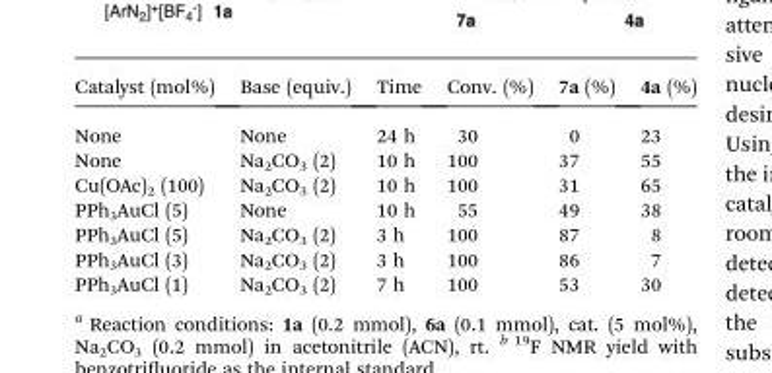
<table><thead><tr><td>Catalyst (mol%)</td><td>Base (equiv.)</td><td>Time</td><td>Conv. (%)</td><td>7a (%)</td><td>4a (%)</td></tr></thead><tbody><tr><td>None</td><td>None</td><td>24 h</td><td>30</td><td>0</td><td>23</td></tr><tr><td>None</td><td>Na<sub>2</sub>CO<sub>3</sub> (2)</td><td>10 h</td><td>100</td><td>37</td><td>55</td></tr><tr><td>Cu(OAc)<sub>2</sub> (100)</td><td>Na<sub>2</sub>CO<sub>3</sub> (2)</td><td>10 h</td><td>100</td><td>31</td><td>65</td></tr><tr><td>PPh<sub>3</sub>AuCl (5)</td><td>None</td><td>10 h</td><td>55</td><td>49</td><td>38</td></tr><tr><td>PPh<sub>3</sub>AuCl (5)</td><td>Na<sub>2</sub>CO<sub>3</sub> (2)</td><td>3 h</td><td>100</td><td>87</td><td>8</td></tr><tr><td>PPh<sub>3</sub>AuCl (3)</td><td>Na<sub>2</sub>CO<sub>3</sub> (2)</td><td>3 h</td><td>100</td><td>86</td><td>7</td></tr><tr><td>PPh<sub>3</sub>AuCl (1)</td><td>Na<sub>2</sub>CO<sub>3</sub> (2)</td><td>7 h</td><td>100</td><td>53</td><td>30</td></tr></tbody></table>